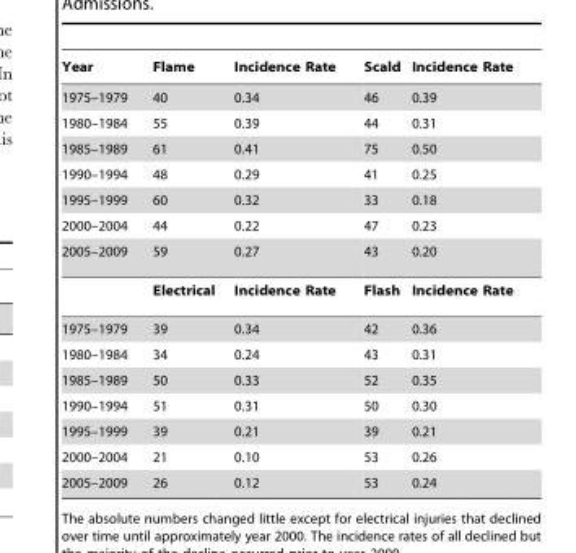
<table><thead><tr><td>Year</td><td>Flame</td><td>Incidence Rate</td><td>Scald</td><td>Incidence Rate</td></tr></thead><tbody><tr><td>1975–1979</td><td>40</td><td>0.34</td><td>46</td><td>0.39</td></tr><tr><td>1980–1984</td><td>55</td><td>0.39</td><td>44</td><td>0.31</td></tr><tr><td>1985–1989</td><td>61</td><td>0.41</td><td>75</td><td>0.50</td></tr><tr><td>1990–1994</td><td>48</td><td>0.29</td><td>41</td><td>0.25</td></tr><tr><td>1995–1999</td><td>60</td><td>0.32</td><td>33</td><td>0.18</td></tr><tr><td>2000–2004</td><td>44</td><td>0.22</td><td>47</td><td>0.23</td></tr><tr><td rowspan="2">2005–2009</td><td>59</td><td>0.27</td><td>43</td><td>0.20</td></tr><tr><td>Electrical</td><td>Incidence Rate</td><td>Flash</td><td>Incidence Rate</td></tr><tr><td>1975–1979</td><td>39</td><td>0.34</td><td>42</td><td>0.36</td></tr><tr><td>1980–1984</td><td>34</td><td>0.24</td><td>43</td><td>0.31</td></tr><tr><td>1985–1989</td><td>50</td><td>0.33</td><td>52</td><td>0.35</td></tr><tr><td>1990–1994</td><td>51</td><td>0.31</td><td>50</td><td>0.30</td></tr><tr><td>1995–1999</td><td>39</td><td>0.21</td><td>39</td><td>0.21</td></tr><tr><td>2000–2004</td><td>21</td><td>0.10</td><td>53</td><td>0.26</td></tr><tr><td>2005–2009</td><td>26</td><td>0.12</td><td>53</td><td>0.24</td></tr></tbody></table>